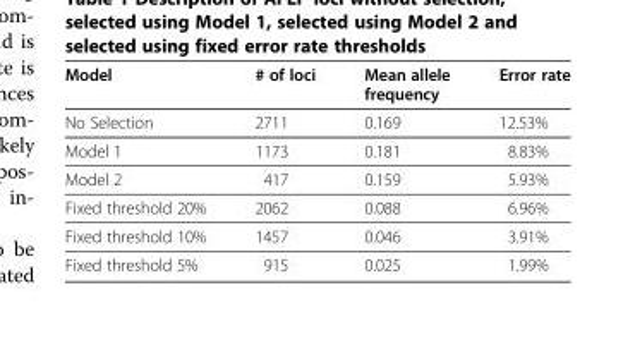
<table><thead><tr><td>Model</td><td># of loci</td><td>Mean allele frequency</td><td>Error rate</td></tr></thead><tbody><tr><td>No Selection</td><td>2711</td><td>0.169</td><td>12.53%</td></tr><tr><td>Model 1</td><td>1173</td><td>0.181</td><td>8.83%</td></tr><tr><td>Model 2</td><td>417</td><td>0.159</td><td>5.93%</td></tr><tr><td>Fixed threshold 20%</td><td>2062</td><td>0.088</td><td>6.96%</td></tr><tr><td>Fixed threshold 10%</td><td>1457</td><td>0.046</td><td>3.91%</td></tr><tr><td>Fixed threshold 5%</td><td>915</td><td>0.025</td><td>1.99%</td></tr></tbody></table>